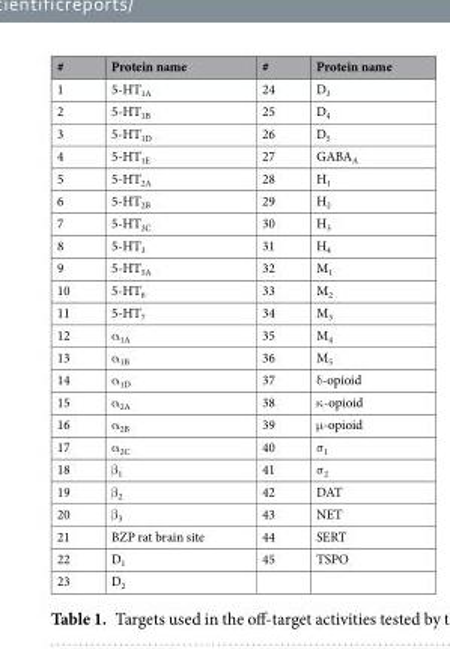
<table><thead><tr><td>#</td><td>Protein name</td><td>#</td><td>Protein name</td></tr></thead><tbody><tr><td>1</td><td>5-HT<sub>1A</sub></td><td>24</td><td>D<sub>3</sub></td></tr><tr><td>2</td><td>5-HT<sub>1B</sub></td><td>25</td><td>D<sub>4</sub></td></tr><tr><td>3</td><td>5-HT<sub>1D</sub></td><td>26</td><td>D<sub>5</sub></td></tr><tr><td>4</td><td>5-HT<sub>1E</sub></td><td>27</td><td>GABA<sub>A</sub></td></tr><tr><td>5</td><td>5-HT<sub>2A</sub></td><td>28</td><td>H<sub>1</sub></td></tr><tr><td>6</td><td>5-HT<sub>2B</sub></td><td>29</td><td>H<sub>2</sub></td></tr><tr><td>7</td><td>5-HT<sub>2C</sub></td><td>30</td><td>H<sub>3</sub></td></tr><tr><td>8</td><td>5-HT<sub>3</sub></td><td>31</td><td>H<sub>4</sub></td></tr><tr><td>9</td><td>5-HT<sub>5A</sub></td><td>32</td><td>M<sub>1</sub></td></tr><tr><td>10</td><td>5-HT<sub>6</sub></td><td>33</td><td>M<sub>2</sub></td></tr><tr><td>11</td><td>5-HT<sub>7</sub></td><td>34</td><td>M<sub>3</sub></td></tr><tr><td>12</td><td>α<sub>1A</sub></td><td>35</td><td>M<sub>4</sub></td></tr><tr><td>13</td><td>α<sub>1B</sub></td><td>36</td><td>M<sub>5</sub></td></tr><tr><td>14</td><td>α<sub>1D</sub></td><td>37</td><td>δ-opioid</td></tr><tr><td>15</td><td>α<sub>2A</sub></td><td>38</td><td>κ-opioid</td></tr><tr><td>16</td><td>α<sub>2B</sub></td><td>39</td><td>μ-opioid</td></tr><tr><td>17</td><td>α<sub>2C</sub></td><td>40</td><td>σ<sub>1</sub></td></tr><tr><td>18</td><td>β<sub>1</sub></td><td>41</td><td>σ<sub>2</sub></td></tr><tr><td>19</td><td>β<sub>2</sub></td><td>42</td><td>DAT</td></tr><tr><td>20</td><td>β<sub>3</sub></td><td>43</td><td>NET</td></tr><tr><td>21</td><td>BZP rat brain site</td><td>44</td><td>SERT</td></tr><tr><td>22</td><td>D<sub>1</sub></td><td>45</td><td>TSPO</td></tr><tr><td>23</td><td>D<sub>2</sub></td><td></td><td></td></tr></tbody></table>